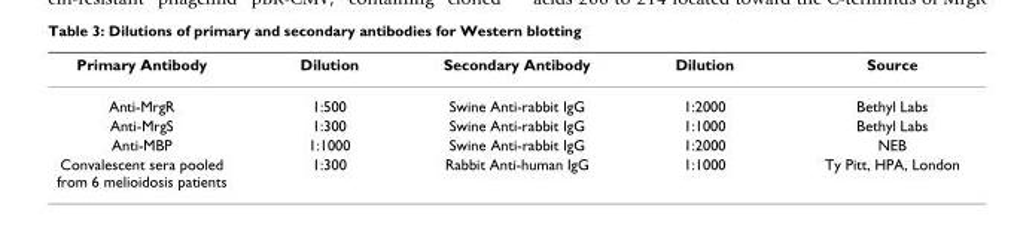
<table><thead><tr><td>Primary Antibody</td><td>Dilution</td><td>Secondary Antibody</td><td>Dilution</td><td>Source</td></tr></thead><tbody><tr><td>Anti-MrgR</td><td>1:500</td><td>Swine Anti-rabbit IgG</td><td>1:2000</td><td>Bethyl Labs</td></tr><tr><td>Anti-MrgS</td><td>1:300</td><td>Swine Anti-rabbit IgG</td><td>1:1000</td><td>Bethyl Labs</td></tr><tr><td>Anti-MBP</td><td>1:1000</td><td>Swine Anti-rabbit IgG</td><td>1:2000</td><td>NEB</td></tr><tr><td>Convalescent sera pooled from 6 melioidosis patients</td><td>1:300</td><td>Rabbit Anti-human IgG</td><td>1:1000</td><td>Ty Pitt, HPA, London</td></tr></tbody></table>